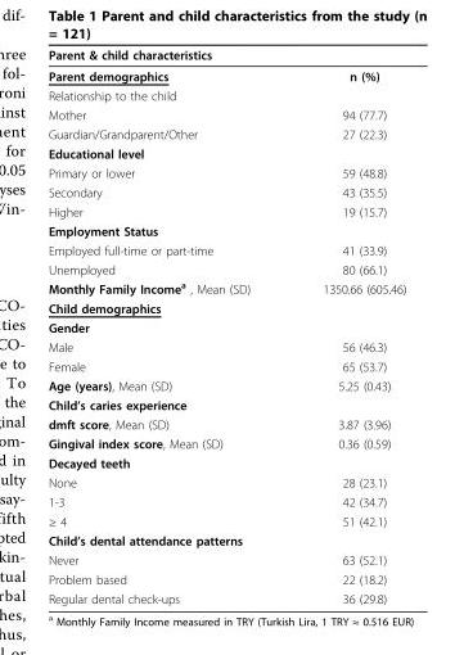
<table><thead><tr><td>Parent &amp; child characteristics</td><td></td></tr></thead><tbody><tr><td>Parent demographics</td><td>n (%)</td></tr><tr><td colspan="2">Relationship to the child</td></tr><tr><td>Mother</td><td>94 (77.7)</td></tr><tr><td>Guardian/Grandparent/Other</td><td>27 (22.3)</td></tr><tr><td colspan="2">Educational level</td></tr><tr><td>Primary or lower</td><td>59 (48.8)</td></tr><tr><td>Secondary</td><td>43 (35.5)</td></tr><tr><td>Higher</td><td>19 (15.7)</td></tr><tr><td colspan="2">Employment Status</td></tr><tr><td>Employed full-time or part-time</td><td>41 (33.9)</td></tr><tr><td>Unemployed</td><td>80 (66.1)</td></tr><tr><td>Monthly Family Income<sup>a</sup> , Mean (SD)</td><td>1350.66 (605.46)</td></tr><tr><td colspan="2">Child demographics</td></tr><tr><td colspan="2">Gender</td></tr><tr><td>Male</td><td>56 (46.3)</td></tr><tr><td>Female</td><td>65 (53.7)</td></tr><tr><td>Age (years), Mean (SD)</td><td>5.25 (0.43)</td></tr><tr><td colspan="2">Child’s caries experience</td></tr><tr><td>dmft score, Mean (SD)</td><td>3.87 (3.96)</td></tr><tr><td>Gingival index score, Mean (SD)</td><td>0.36 (0.59)</td></tr><tr><td colspan="2">Decayed teeth</td></tr><tr><td>None</td><td>28 (23.1)</td></tr><tr><td>1-3</td><td>42 (34.7)</td></tr><tr><td>≥ 4</td><td>51 (42.1)</td></tr><tr><td colspan="2">Child’s dental attendance patterns</td></tr><tr><td>Never</td><td>63 (52.1)</td></tr><tr><td>Problem based</td><td>22 (18.2)</td></tr><tr><td>Regular dental check-ups</td><td>36 (29.8)</td></tr></tbody></table>